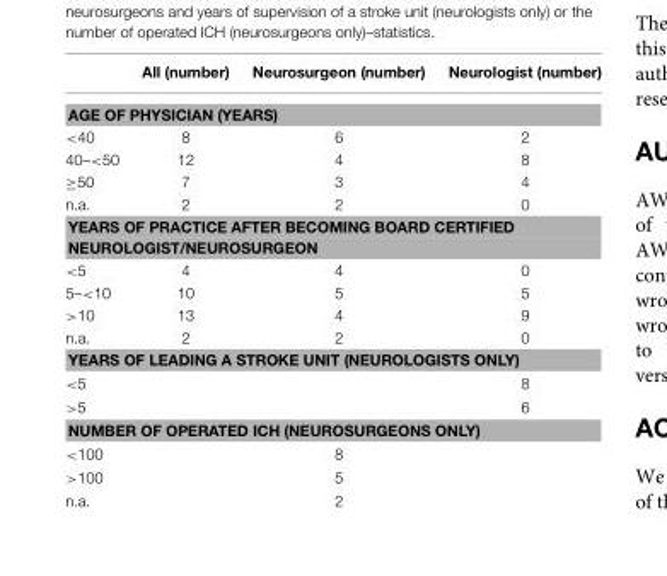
<table><thead><tr><td></td><td>All (number)</td><td>Neurosurgeon (number)</td><td>Neurologist (number)</td></tr></thead><tbody><tr><td colspan="4">AGE OF PHYSICIAN (YEARS)</td></tr><tr><td>&lt;40</td><td>8</td><td>6</td><td>2</td></tr><tr><td>40–&lt;50</td><td>12</td><td>4</td><td>8</td></tr><tr><td>≥50</td><td>7</td><td>3</td><td>4</td></tr><tr><td>n.a.</td><td>2</td><td>2</td><td>0</td></tr><tr><td colspan="4">YEARS OF PRACTICE AFTER BECOMING BOARD CERTIFIED</td></tr><tr><td colspan="4">NEUROLOGIST/NEUROSURGEON</td></tr><tr><td>&lt;5</td><td>4</td><td>4</td><td>0</td></tr><tr><td>5–&lt;10</td><td>10</td><td>5</td><td>5</td></tr><tr><td>&gt;10</td><td>13</td><td>4</td><td>9</td></tr><tr><td>n.a.</td><td>2</td><td>2</td><td>0</td></tr><tr><td colspan="4">YEARS OF LEADING A STROKE UNIT (NEUROLOGISTS ONLY)</td></tr><tr><td>&lt;5</td><td></td><td></td><td>8</td></tr><tr><td>&gt;5</td><td></td><td></td><td>6</td></tr><tr><td colspan="4">NUMBER OF OPERATED ICH (NEUROSURGEONS ONLY)</td></tr><tr><td>&lt;100</td><td></td><td>8</td><td></td></tr><tr><td>&gt;100</td><td></td><td>5</td><td></td></tr><tr><td>n.a.</td><td></td><td>2</td><td></td></tr></tbody></table>